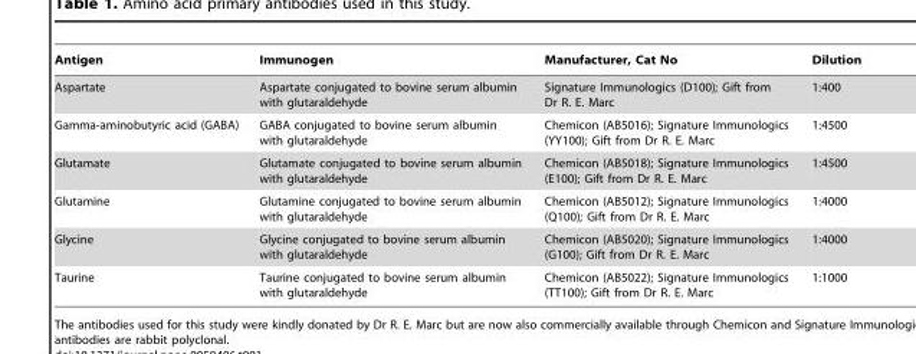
<table><thead><tr><td>Antigen</td><td>Immunogen</td><td>Manufacturer, Cat No</td><td>Dilution</td></tr></thead><tbody><tr><td>Aspartate</td><td>Aspartate conjugated to bovine serum albumin with glutaraldehyde</td><td>Signature Immunologics (D100); Gift from Dr R. E. Marc</td><td>1:400</td></tr><tr><td>Gamma-aminobutyric acid (GABA)</td><td>GABA conjugated to bovine serum albumin with glutaraldehyde</td><td>Chemicon (AB5016); Signature Immunologics (YY100); Gift from Dr R. E. Marc</td><td>1:4500</td></tr><tr><td>Glutamate</td><td>Glutamate conjugated to bovine serum albumin with glutaraldehyde</td><td>Chemicon (AB5018); Signature Immunologics (E100); Gift from Dr R. E. Marc</td><td>1:4500</td></tr><tr><td>Glutamine</td><td>Glutamine conjugated to bovine serum albumin with glutaraldehyde</td><td>Chemicon (AB5012); Signature Immunologics (Q100); Gift from Dr R. E. Marc</td><td>1:4000</td></tr><tr><td>Glycine</td><td>Glycine conjugated to bovine serum albumin with glutaraldehyde</td><td>Chemicon (AB5020); Signature Immunologics (G100); Gift from Dr R. E. Marc</td><td>1:4000</td></tr><tr><td>Taurine</td><td>Taurine conjugated to bovine serum albumin with glutaraldehyde</td><td>Chemicon (AB5022); Signature Immunologics (TT100); Gift from Dr R. E. Marc</td><td>1:1000</td></tr></tbody></table>